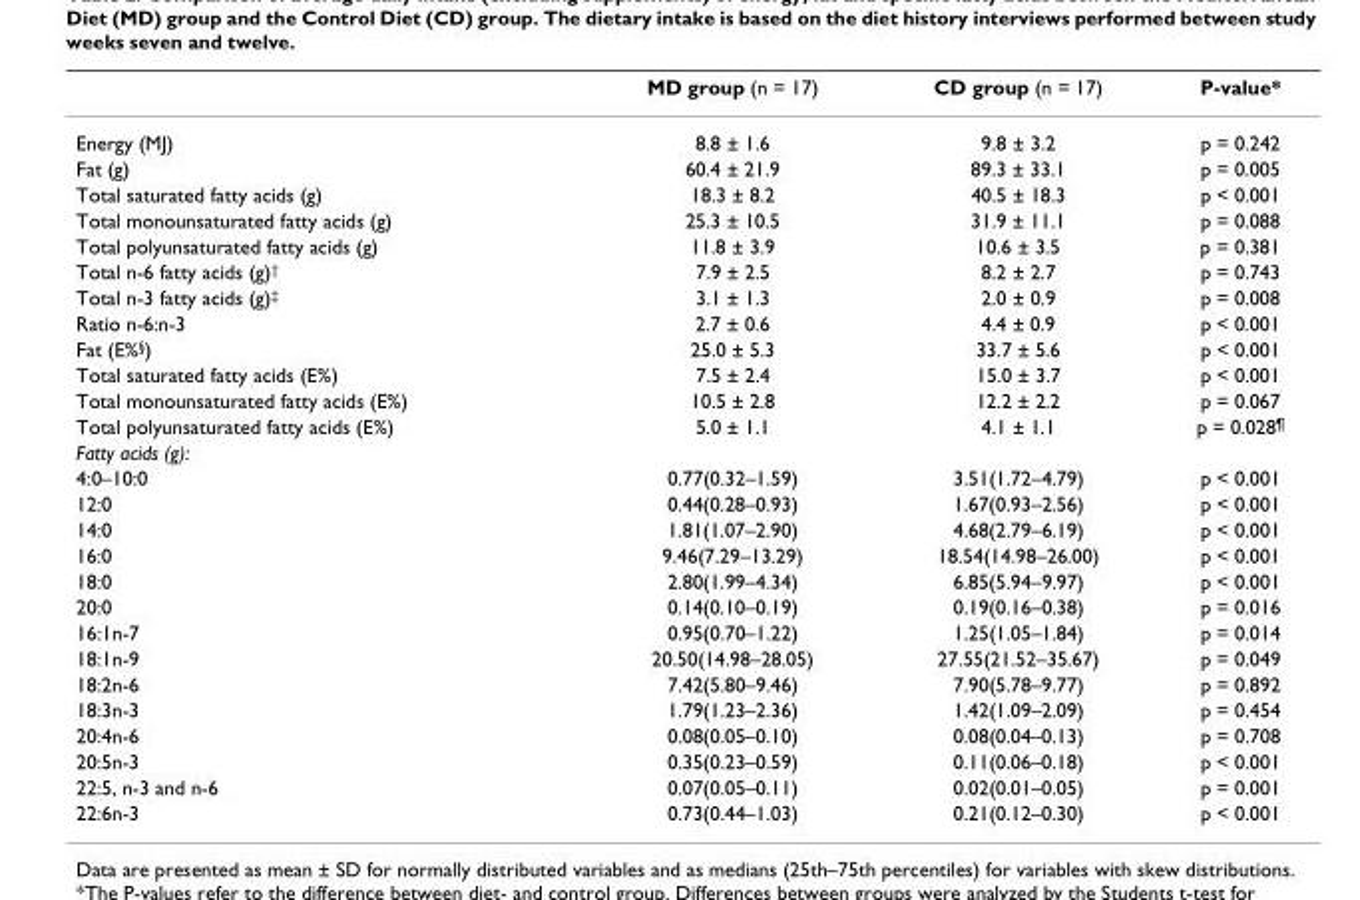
<table><thead><tr><td></td><td>MD group (n = 17)</td><td>CD group (n = 17)</td><td>P-value*</td></tr></thead><tbody><tr><td>Energy (MJ)</td><td>8.8 ± 1.6</td><td>9.8 ± 3.2</td><td>p = 0.242</td></tr><tr><td>Fat (g)</td><td>60.4 ± 21.9</td><td>89.3 ± 33.1</td><td>p = 0.005</td></tr><tr><td>Total saturated fatty acids (g)</td><td>18.3 ± 8.2</td><td>40.5 ± 18.3</td><td>p &lt; 0.001</td></tr><tr><td>Total monounsaturated fatty acids (g)</td><td>25.3 ± 10.5</td><td>31.9 ± 11.1</td><td>p = 0.088</td></tr><tr><td>Total polyunsaturated fatty acids (g)</td><td>11.8 ± 3.9</td><td>10.6 ± 3.5</td><td>p = 0.381</td></tr><tr><td>Total n-6 fatty acids (g)<sup>†</sup></td><td>7.9 ± 2.5</td><td>8.2 ± 2.7</td><td>p = 0.743</td></tr><tr><td>Total n-3 fatty acids (g)<sup>‡</sup></td><td>3.1 ± 1.3</td><td>2.0 ± 0.9</td><td>p = 0.008</td></tr><tr><td>Ratio n-6:n-3</td><td>2.7 ± 0.6</td><td>4.4 ± 0.9</td><td>p &lt; 0.001</td></tr><tr><td>Fat (E%<sup>§</sup>)</td><td>25.0 ± 5.3</td><td>33.7 ± 5.6</td><td>p &lt; 0.001</td></tr><tr><td>Total saturated fatty acids (E%)</td><td>7.5 ± 2.4</td><td>15.0 ± 3.7</td><td>p &lt; 0.001</td></tr><tr><td>Total monounsaturated fatty acids (E%)</td><td>10.5 ± 2.8</td><td>12.2 ± 2.2</td><td>p = 0.067</td></tr><tr><td>Total polyunsaturated fatty acids (E%)</td><td>5.0 ± 1.1</td><td>4.1 ± 1.1</td><td>p = 0.028<sup>¶</sup></td></tr><tr><td colspan="4">Fatty acids (g):</td></tr><tr><td>4:0–10:0</td><td>0.77(0.32–1.59)</td><td>3.51(1.72–4.79)</td><td>p &lt; 0.001</td></tr><tr><td>12:0</td><td>0.44(0.28–0.93)</td><td>1.67(0.93–2.56)</td><td>p &lt; 0.001</td></tr><tr><td>14:0</td><td>1.81(1.07–2.90)</td><td>4.68(2.79–6.19)</td><td>p &lt; 0.001</td></tr><tr><td>16:0</td><td>9.46(7.29–13.29)</td><td>18.54(14.98–26.00)</td><td>p &lt; 0.001</td></tr><tr><td>18:0</td><td>2.80(1.99–4.34)</td><td>6.85(5.94–9.97)</td><td>p &lt; 0.001</td></tr><tr><td>20:0</td><td>0.14(0.10–0.19)</td><td>0.19(0.16–0.38)</td><td>p = 0.016</td></tr><tr><td>16:1n-7</td><td>0.95(0.70–1.22)</td><td>1.25(1.05–1.84)</td><td>p = 0.014</td></tr><tr><td>18:1n-9</td><td>20.50(14.98–28.05)</td><td>27.55(21.52–35.67)</td><td>p = 0.049</td></tr><tr><td>18:2n-6</td><td>7.42(5.80–9.46)</td><td>7.90(5.78–9.77)</td><td>p = 0.892</td></tr><tr><td>18:3n-3</td><td>1.79(1.23–2.36)</td><td>1.42(1.09–2.09)</td><td>p = 0.454</td></tr><tr><td>20:4n-6</td><td>0.08(0.05–0.10)</td><td>0.08(0.04–0.13)</td><td>p = 0.708</td></tr><tr><td>20:5n-3</td><td>0.35(0.23–0.59)</td><td>0.11(0.06–0.18)</td><td>p &lt; 0.001</td></tr><tr><td>22:5, n-3 and n-6</td><td>0.07(0.05–0.11)</td><td>0.02(0.01–0.05)</td><td>p = 0.001</td></tr><tr><td>22:6n-3</td><td>0.73(0.44–1.03)</td><td>0.21(0.12–0.30)</td><td>p &lt; 0.001</td></tr></tbody></table>